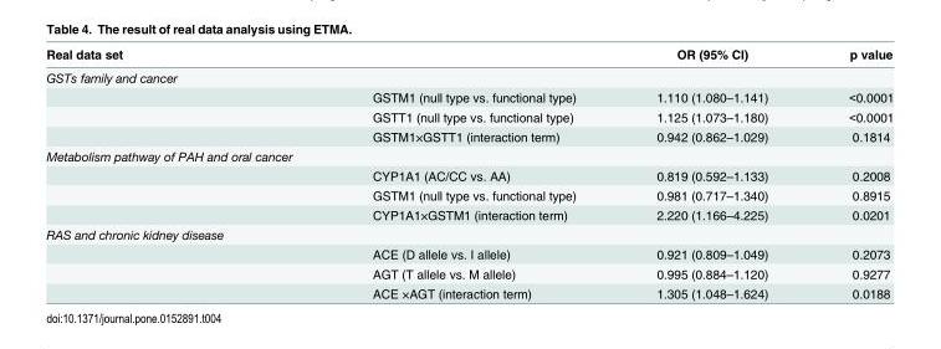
<table><thead><tr><td>Real data set</td><td></td><td>OR (95% CI)</td><td>p value</td></tr></thead><tbody><tr><td colspan="4">GSTs family and cancer</td></tr><tr><td></td><td>GSTM1 (null type vs. functional type)</td><td>1.110 (1.080–1.141)</td><td>&lt;0.0001</td></tr><tr><td></td><td>GSTT1 (null type vs. functional type)</td><td>1.125 (1.073–1.180)</td><td>&lt;0.0001</td></tr><tr><td></td><td>GSTM1×GSTT1 (interaction term)</td><td>0.942 (0.862–1.029)</td><td>0.1814</td></tr><tr><td colspan="4">Metabolism pathway of PAH and oral cancer</td></tr><tr><td></td><td>CYP1A1 (AC/CC vs. AA)</td><td>0.819 (0.592–1.133)</td><td>0.2008</td></tr><tr><td></td><td>GSTM1 (null type vs. functional type)</td><td>0.981 (0.717–1.340)</td><td>0.8915</td></tr><tr><td></td><td>CYP1A1×GSTM1 (interaction term)</td><td>2.220 (1.166–4.225)</td><td>0.0201</td></tr><tr><td colspan="4">RAS and chronic kidney disease</td></tr><tr><td></td><td>ACE (D allele vs. I allele)</td><td>0.921 (0.809–1.049)</td><td>0.2073</td></tr><tr><td></td><td>AGT (T allele vs. M allele)</td><td>0.995 (0.884–1.120)</td><td>0.9277</td></tr><tr><td></td><td>ACE ×AGT (interaction term)</td><td>1.305 (1.048–1.624)</td><td>0.0188</td></tr></tbody></table>